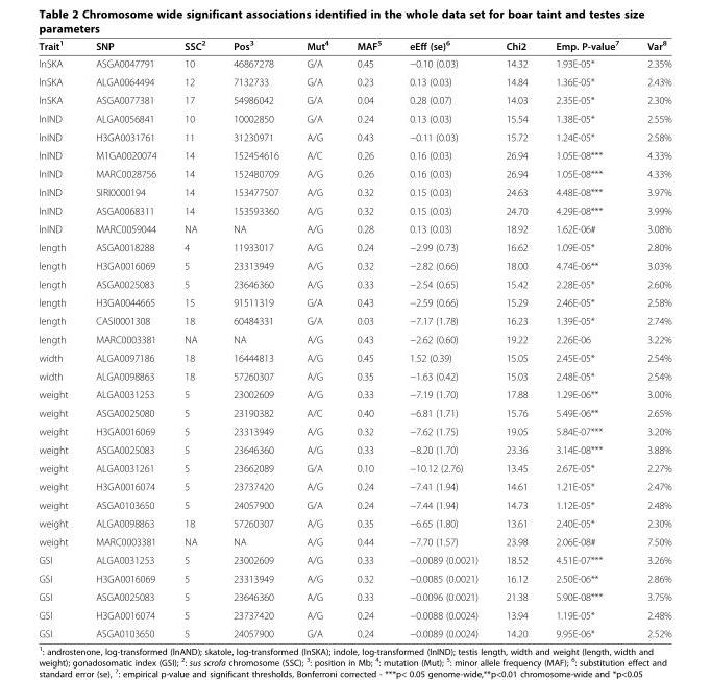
<table><thead><tr><td>Trait<sup>1</sup></td><td>SNP</td><td>SSC<sup>2</sup></td><td>Pos<sup>3</sup></td><td>Mut<sup>4</sup></td><td>MAF<sup>5</sup></td><td>eEff (se)<sup>6</sup></td><td>Chi2</td><td>Emp. P-value<sup>7</sup></td><td>Var<sup>8</sup></td></tr></thead><tbody><tr><td>lnSKA</td><td>ASGA0047791</td><td>10</td><td>46867278</td><td>G/A</td><td>0.45</td><td>−0.10 (0.03)</td><td>14.32</td><td>1.93E-05*</td><td>2.35%</td></tr><tr><td>lnSKA</td><td>ALGA0064494</td><td>12</td><td>7132733</td><td>G/A</td><td>0.23</td><td>0.13 (0.03)</td><td>14.84</td><td>1.36E-05*</td><td>2.43%</td></tr><tr><td>lnSKA</td><td>ASGA0077381</td><td>17</td><td>54986042</td><td>G/A</td><td>0.04</td><td>0.28 (0.07)</td><td>14.03</td><td>2.35E-05*</td><td>2.30%</td></tr><tr><td>lnIND</td><td>ALGA0056841</td><td>10</td><td>10002850</td><td>G/A</td><td>0.24</td><td>0.13 (0.03)</td><td>15.54</td><td>1.38E-05*</td><td>2.55%</td></tr><tr><td>lnIND</td><td>H3GA0031761</td><td>11</td><td>31230971</td><td>A/G</td><td>0.43</td><td>−0.11 (0.03)</td><td>15.72</td><td>1.24E-05*</td><td>2.58%</td></tr><tr><td>lnIND</td><td>M1GA0020074</td><td>14</td><td>152454616</td><td>A/C</td><td>0.26</td><td>0.16 (0.03)</td><td>26.94</td><td>1.05E-08***</td><td>4.33%</td></tr><tr><td>lnIND</td><td>MARC0028756</td><td>14</td><td>152480709</td><td>A/G</td><td>0.26</td><td>0.16 (0.03)</td><td>26.94</td><td>1.05E-08***</td><td>4.33%</td></tr><tr><td>lnIND</td><td>SIRI0000194</td><td>14</td><td>153477507</td><td>A/G</td><td>0.32</td><td>0.15 (0.03)</td><td>24.63</td><td>4.48E-08***</td><td>3.97%</td></tr><tr><td>lnIND</td><td>ASGA0068311</td><td>14</td><td>153593360</td><td>A/G</td><td>0.32</td><td>0.15 (0.03)</td><td>24.70</td><td>4.29E-08***</td><td>3.99%</td></tr><tr><td>lnIND</td><td>MARC0059044</td><td>NA</td><td>NA</td><td>A/G</td><td>0.28</td><td>0.13 (0.03)</td><td>18.92</td><td>1.62E-06#</td><td>3.08%</td></tr><tr><td>length</td><td>ASGA0018288</td><td>4</td><td>11933017</td><td>A/G</td><td>0.24</td><td>−2.99 (0.73)</td><td>16.62</td><td>1.09E-05*</td><td>2.80%</td></tr><tr><td>length</td><td>H3GA0016069</td><td>5</td><td>23313949</td><td>A/G</td><td>0.32</td><td>−2.82 (0.66)</td><td>18.00</td><td>4.74E-06**</td><td>3.03%</td></tr><tr><td>length</td><td>ASGA0025083</td><td>5</td><td>23646360</td><td>A/G</td><td>0.33</td><td>−2.54 (0.65)</td><td>15.42</td><td>2.28E-05*</td><td>2.60%</td></tr><tr><td>length</td><td>H3GA0044665</td><td>15</td><td>91511319</td><td>G/A</td><td>0.43</td><td>−2.59 (0.66)</td><td>15.29</td><td>2.46E-05*</td><td>2.58%</td></tr><tr><td>length</td><td>CASI0001308</td><td>18</td><td>60484331</td><td>G/A</td><td>0.03</td><td>−7.17 (1.78)</td><td>16.23</td><td>1.39E-05*</td><td>2.74%</td></tr><tr><td>length</td><td>MARC0003381</td><td>NA</td><td>NA</td><td>A/G</td><td>0.43</td><td>−2.62 (0.60)</td><td>19.22</td><td>2.26E-06</td><td>3.22%</td></tr><tr><td>width</td><td>ALGA0097186</td><td>18</td><td>16444813</td><td>A/G</td><td>0.45</td><td>1.52 (0.39)</td><td>15.05</td><td>2.45E-05*</td><td>2.54%</td></tr><tr><td>width</td><td>ALGA0098863</td><td>18</td><td>57260307</td><td>A/G</td><td>0.35</td><td>−1.63 (0.42)</td><td>15.03</td><td>2.48E-05*</td><td>2.54%</td></tr><tr><td>weight</td><td>ALGA0031253</td><td>5</td><td>23002609</td><td>A/G</td><td>0.33</td><td>−7.19 (1.70)</td><td>17.88</td><td>1.29E-06**</td><td>3.00%</td></tr><tr><td>weight</td><td>ASGA0025080</td><td>5</td><td>23190382</td><td>A/C</td><td>0.40</td><td>−6.81 (1.71)</td><td>15.76</td><td>5.49E-06**</td><td>2.65%</td></tr><tr><td>weight</td><td>H3GA0016069</td><td>5</td><td>23313949</td><td>A/G</td><td>0.32</td><td>−7.62 (1.75)</td><td>19.05</td><td>5.84E-07***</td><td>3.20%</td></tr><tr><td>weight</td><td>ASGA0025083</td><td>5</td><td>23646360</td><td>A/G</td><td>0.33</td><td>−8.20 (1.70)</td><td>23.36</td><td>3.14E-08***</td><td>3.88%</td></tr><tr><td>weight</td><td>ALGA0031261</td><td>5</td><td>23662089</td><td>G/A</td><td>0.10</td><td>−10.12 (2.76)</td><td>13.45</td><td>2.67E-05*</td><td>2.27%</td></tr><tr><td>weight</td><td>H3GA0016074</td><td>5</td><td>23737420</td><td>A/G</td><td>0.24</td><td>−7.41 (1.94)</td><td>14.61</td><td>1.21E-05*</td><td>2.47%</td></tr><tr><td>weight</td><td>ASGA0103650</td><td>5</td><td>24057900</td><td>G/A</td><td>0.24</td><td>−7.44 (1.94)</td><td>14.73</td><td>1.12E-05*</td><td>2.48%</td></tr><tr><td>weight</td><td>ALGA0098863</td><td>18</td><td>57260307</td><td>A/G</td><td>0.35</td><td>−6.65 (1.80)</td><td>13.61</td><td>2.40E-05*</td><td>2.30%</td></tr><tr><td>weight</td><td>MARC0003381</td><td>NA</td><td>NA</td><td>A/G</td><td>0.44</td><td>−7.70 (1.57)</td><td>23.98</td><td>2.06E-08#</td><td>7.50%</td></tr><tr><td>GSI</td><td>ALGA0031253</td><td>5</td><td>23002609</td><td>A/G</td><td>0.33</td><td>−0.0089 (0.0021)</td><td>18.52</td><td>4.51E-07***</td><td>3.26%</td></tr><tr><td>GSI</td><td>H3GA0016069</td><td>5</td><td>23313949</td><td>A/G</td><td>0.32</td><td>−0.0085 (0.0021)</td><td>16.12</td><td>2.50E-06**</td><td>2.86%</td></tr><tr><td>GSI</td><td>ASGA0025083</td><td>5</td><td>23646360</td><td>A/G</td><td>0.33</td><td>−0.0096 (0.0021)</td><td>21.38</td><td>5.90E-08***</td><td>3.75%</td></tr><tr><td>GSI</td><td>H3GA0016074</td><td>5</td><td>23737420</td><td>A/G</td><td>0.24</td><td>−0.0088 (0.0024)</td><td>13.94</td><td>1.19E-05*</td><td>2.48%</td></tr><tr><td>GSI</td><td>ASGA0103650</td><td>5</td><td>24057900</td><td>G/A</td><td>0.24</td><td>−0.0089 (0.0024)</td><td>14.20</td><td>9.95E-06*</td><td>2.52%</td></tr></tbody></table>